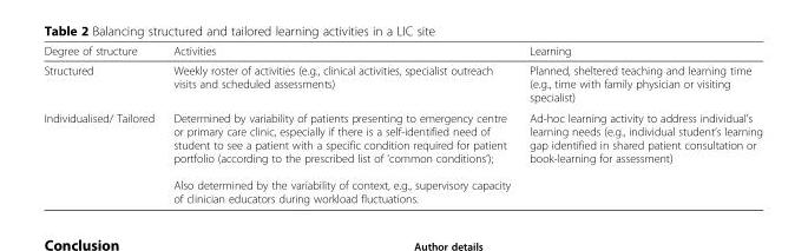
<table><thead><tr><td>Degree of structure</td><td>Activities</td><td>Learning</td></tr></thead><tbody><tr><td>Structured</td><td>Weekly roster of activities (e.g., clinical activities, specialist outreach visits and scheduled assessments)</td><td>Planned, sheltered teaching and learning time (e.g., time with family physician or visiting specialist)</td></tr><tr><td>Individualised/ Tailored</td><td>Determined by variability of patients presenting to emergency centre or primary care clinic, especially if there is a self-identified need of student to see a patient with a specific condition required for patient portfolio (according to the prescribed list of ‘common conditions’); Also determined by the variability of context, e.g., supervisory capacity of clinician educators during workload fluctuations.</td><td>Ad-hoc learning activity to address individual’s learning needs (e.g., individual student’s learning gap identified in shared patient consultation or book-learning for assessment)</td></tr></tbody></table>